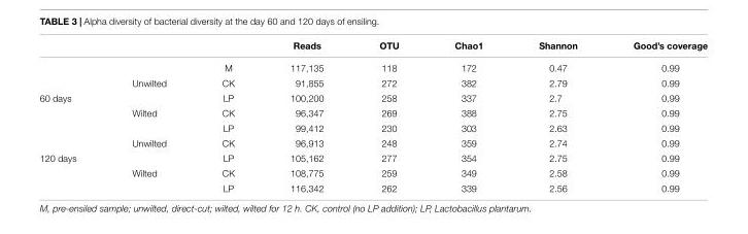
<table><thead><tr><td></td><td></td><td></td><td>Reads</td><td>OTU</td><td>Chao1</td><td>Shannon</td><td>Good’s coverage</td></tr></thead><tbody><tr><td></td><td></td><td>M</td><td>117,135</td><td>118</td><td>172</td><td>0.47</td><td>0.99</td></tr><tr><td></td><td>Unwilted</td><td>CK</td><td>91,855</td><td>272</td><td>382</td><td>2.79</td><td>0.99</td></tr><tr><td rowspan="4">60 days</td><td></td><td>LP</td><td>100,200</td><td>258</td><td>337</td><td>2.7</td><td>0.99</td></tr><tr><td>Wilted</td><td>CK</td><td>96,347</td><td>269</td><td>388</td><td>2.75</td><td>0.99</td></tr><tr><td></td><td>LP</td><td>99,412</td><td>230</td><td>303</td><td>2.63</td><td>0.99</td></tr><tr><td>Unwilted</td><td>CK</td><td>96,913</td><td>248</td><td>359</td><td>2.74</td><td>0.99</td></tr><tr><td rowspan="3">120 days</td><td></td><td>LP</td><td>105,162</td><td>277</td><td>354</td><td>2.75</td><td>0.99</td></tr><tr><td>Wilted</td><td>CK</td><td>108,775</td><td>259</td><td>349</td><td>2.58</td><td>0.99</td></tr><tr><td></td><td>LP</td><td>116,342</td><td>262</td><td>339</td><td>2.56</td><td>0.99</td></tr></tbody></table>